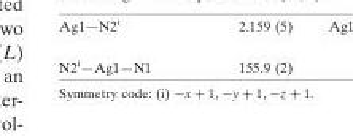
<table><tbody><tr><td>N2<sup>i</sup>—Ag1—N1</td><td>155.9 (2)</td></tr></tbody></table>